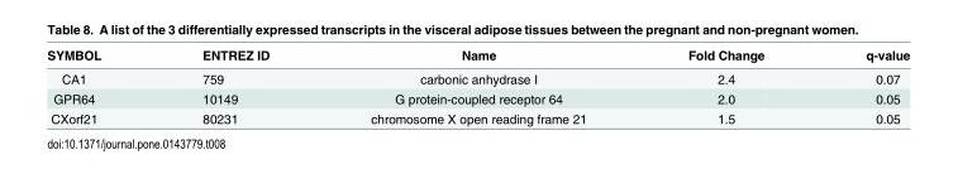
<table><thead><tr><td>SYMBOL</td><td>ENTREZ ID</td><td>Name</td><td>Fold Change</td><td>q-value</td></tr></thead><tbody><tr><td>CA1</td><td>759</td><td>carbonic anhydrase I</td><td>2.4</td><td>0.07</td></tr><tr><td>GPR64</td><td>10149</td><td>G protein-coupled receptor 64</td><td>2.0</td><td>0.05</td></tr><tr><td>CXorf21</td><td>80231</td><td>chromosome X open reading frame 21</td><td>1.5</td><td>0.05</td></tr></tbody></table>